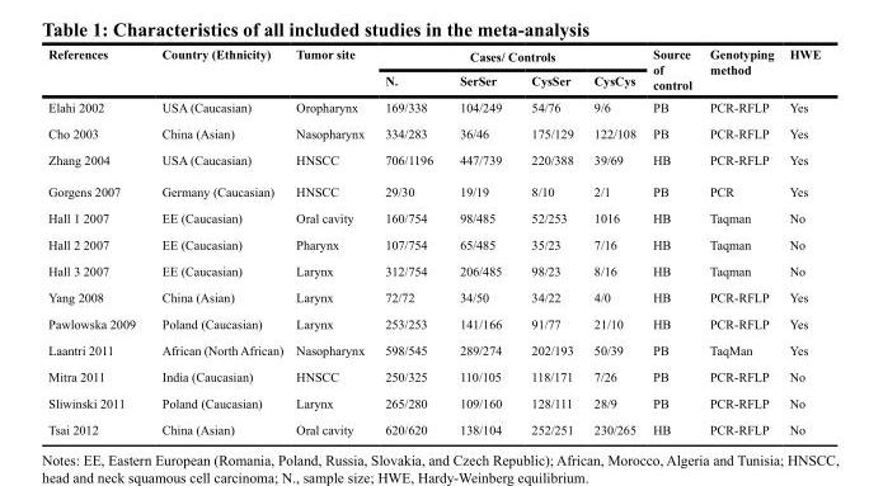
<table><thead><tr><td rowspan="2">References</td><td rowspan="2">Country (Ethnicity)</td><td rowspan="2">Tumor site</td><td colspan="4">Cases/ Controls</td><td rowspan="2">Source of control</td><td rowspan="2">Genotyping method</td><td rowspan="2">HWE</td></tr><tr><td>N.</td><td>SerSer</td><td>CysSer</td><td>CysCys</td></tr></thead><tbody><tr><td>Elahi 2002</td><td>USA (Caucasian)</td><td>Oropharynx</td><td>169/338</td><td>104/249</td><td>54/76</td><td>9/6</td><td>PB</td><td>PCR-RFLP</td><td>Yes</td></tr><tr><td>Cho 2003</td><td>China (Asian)</td><td>Nasopharynx</td><td>334/283</td><td>36/46</td><td>175/129</td><td>122/108</td><td>PB</td><td>PCR-RFLP</td><td>Yes</td></tr><tr><td>Zhang 2004</td><td>USA (Caucasian)</td><td>HNSCC</td><td>706/1196</td><td>447/739</td><td>220/388</td><td>39/69</td><td>HB</td><td>PCR-RFLP</td><td>Yes</td></tr><tr><td>Gorgens 2007</td><td>Germany (Caucasian)</td><td>HNSCC</td><td>29/30</td><td>19/19</td><td>8/10</td><td>2/1</td><td>PB</td><td>PCR</td><td>Yes</td></tr><tr><td>Hall 1 2007</td><td>EE (Caucasian)</td><td>Oral cavity</td><td>160/754</td><td>98/485</td><td>52/253</td><td>1016</td><td>HB</td><td>Taqman</td><td>No</td></tr><tr><td>Hall 2 2007</td><td>EE (Caucasian)</td><td>Pharynx</td><td>107/754</td><td>65/485</td><td>35/23</td><td>7/16</td><td>HB</td><td>Taqman</td><td>No</td></tr><tr><td>Hall 3 2007</td><td>EE (Caucasian)</td><td>Larynx</td><td>312/754</td><td>206/485</td><td>98/23</td><td>8/16</td><td>HB</td><td>Taqman</td><td>No</td></tr><tr><td>Yang 2008</td><td>China (Asian)</td><td>Larynx</td><td>72/72</td><td>34/50</td><td>34/22</td><td>4/0</td><td>HB</td><td>PCR-RFLP</td><td>Yes</td></tr><tr><td>Pawlowska 2009</td><td>Poland (Caucasian)</td><td>Larynx</td><td>253/253</td><td>141/166</td><td>91/77</td><td>21/10</td><td>HB</td><td>PCR-RFLP</td><td>Yes</td></tr><tr><td>Laantri 2011</td><td>African (North African)</td><td>Nasopharynx</td><td>598/545</td><td>289/274</td><td>202/193</td><td>50/39</td><td>PB</td><td>TaqMan</td><td>Yes</td></tr><tr><td>Mitra 2011</td><td>India (Caucasian)</td><td>HNSCC</td><td>250/325</td><td>110/105</td><td>118/171</td><td>7/26</td><td>PB</td><td>PCR-RFLP</td><td>No</td></tr><tr><td>Sliwinski 2011</td><td>Poland (Caucasian)</td><td>Larynx</td><td>265/280</td><td>109/160</td><td>128/111</td><td>28/9</td><td>PB</td><td>PCR-RFLP</td><td>No</td></tr><tr><td>Tsai 2012</td><td>China (Asian)</td><td>Oral cavity</td><td>620/620</td><td>138/104</td><td>252/251</td><td>230/265</td><td>HB</td><td>PCR-RFLP</td><td>No</td></tr></tbody></table>